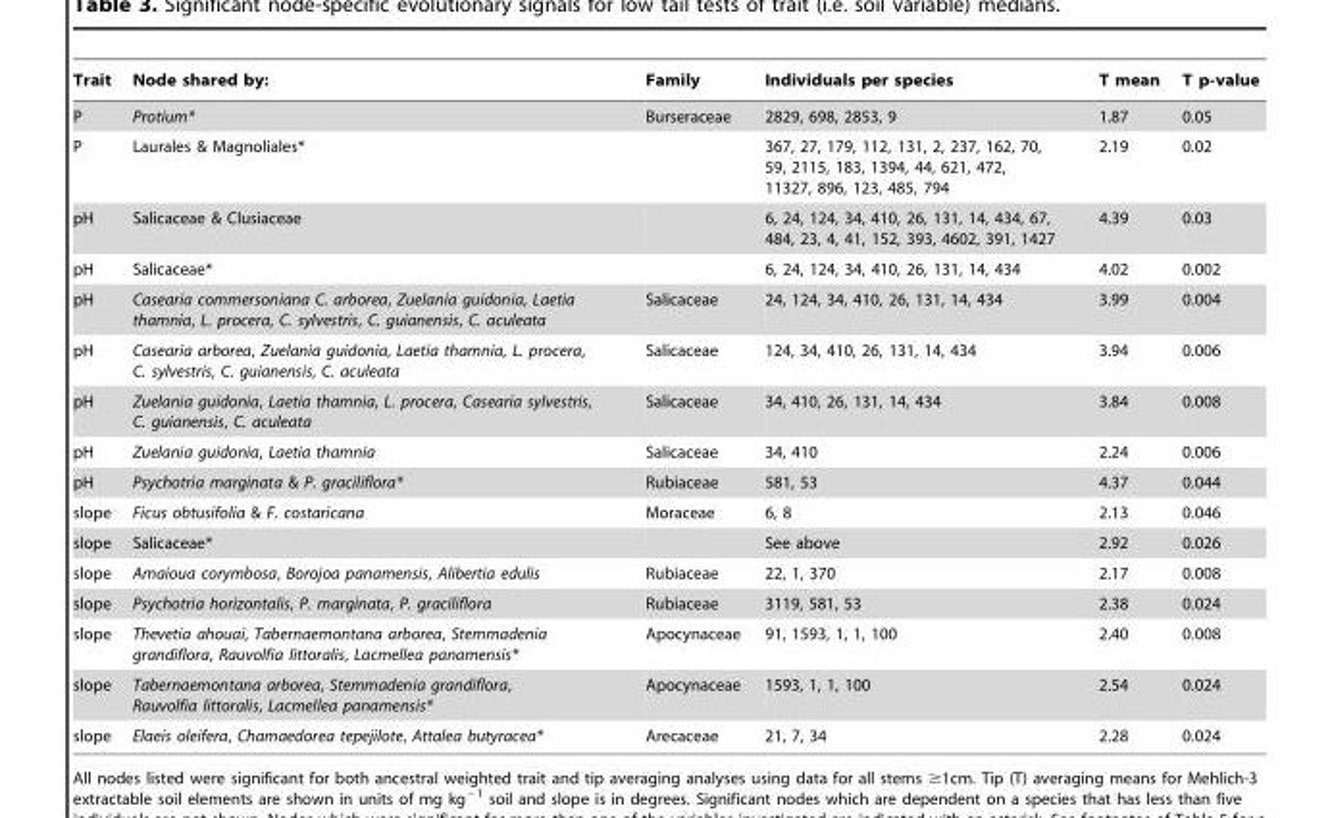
<table><thead><tr><td>Trait</td><td>Node shared by:</td><td>Family</td><td>Individuals per species</td><td>T mean</td><td>T p-value</td></tr></thead><tbody><tr><td>P</td><td>Protium*</td><td>Burseraceae</td><td>2829, 698, 2853, 9</td><td>1.87</td><td>0.05</td></tr><tr><td>P</td><td>Laurales &amp; Magnoliales*</td><td></td><td>367, 27, 179, 112, 131, 2, 237, 162, 70, 59, 2115, 183, 1394, 44, 621, 472, 11327, 896, 123, 485, 794</td><td>2.19</td><td>0.02</td></tr><tr><td>pH</td><td>Salicaceae &amp; Clusiaceae</td><td></td><td>6, 24, 124, 34, 410, 26, 131, 14, 434, 67, 484, 23, 4, 41, 152, 393, 4602, 391, 1427</td><td>4.39</td><td>0.03</td></tr><tr><td>pH</td><td>Salicaceae*</td><td></td><td>6, 24, 124, 34, 410, 26, 131, 14, 434</td><td>4.02</td><td>0.002</td></tr><tr><td>pH</td><td>Casearia commersoniana C. arborea, Zuelania guidonia, Laetia thamnia, L. procera, C. sylvestris, C. guianensis, C. aculeata</td><td>Salicaceae</td><td>24, 124, 34, 410, 26, 131, 14, 434</td><td>3.99</td><td>0.004</td></tr><tr><td>pH</td><td>Casearia arborea, Zuelania guidonia, Laetia thamnia, L. procera, C. sylvestris, C. guianensis, C. aculeata</td><td>Salicaceae</td><td>124, 34, 410, 26, 131, 14, 434</td><td>3.94</td><td>0.006</td></tr><tr><td>pH</td><td>Zuelania guidonia, Laetia thamnia, L. procera, Casearia sylvestris, C. guianensis, C. aculeata</td><td>Salicaceae</td><td>34, 410, 26, 131, 14, 434</td><td>3.84</td><td>0.008</td></tr><tr><td>pH</td><td>Zuelania guidonia, Laetia thamnia</td><td>Salicaceae</td><td>34, 410</td><td>2.24</td><td>0.006</td></tr><tr><td>pH</td><td>Psychotria marginata &amp; P. graciliflora*</td><td>Rubiaceae</td><td>581, 53</td><td>4.37</td><td>0.044</td></tr><tr><td>slope</td><td>Ficus obtusifolia &amp; F. costaricana</td><td>Moraceae</td><td>6, 8</td><td>2.13</td><td>0.046</td></tr><tr><td>slope</td><td>Salicaceae*</td><td></td><td>See above</td><td>2.92</td><td>0.026</td></tr><tr><td>slope</td><td>Amaioua corymbosa, Borojoa panamensis, Alibertia edulis</td><td>Rubiaceae</td><td>22, 1, 370</td><td>2.17</td><td>0.008</td></tr><tr><td>slope</td><td>Psychotria horizontalis, P. marginata, P. graciliflora</td><td>Rubiaceae</td><td>3119, 581, 53</td><td>2.38</td><td>0.024</td></tr><tr><td>slope</td><td>Thevetia ahouai, Tabernaemontana arborea, Stemmadenia grandiflora, Rauvolfia littoralis, Lacmellea panamensis*</td><td>Apocynaceae</td><td>91, 1593, 1, 1, 100</td><td>2.40</td><td>0.008</td></tr><tr><td>slope</td><td>Tabernaemontana arborea, Stemmadenia grandiflora, Rauvolfia littoralis, Lacmellea panamensis*</td><td>Apocynaceae</td><td>1593, 1, 1, 100</td><td>2.54</td><td>0.024</td></tr><tr><td>slope</td><td>Elaeis oleifera, Chamaedorea tepejilote, Attalea butyracea*</td><td>Arecaceae</td><td>21, 7, 34</td><td>2.28</td><td>0.024</td></tr></tbody></table>